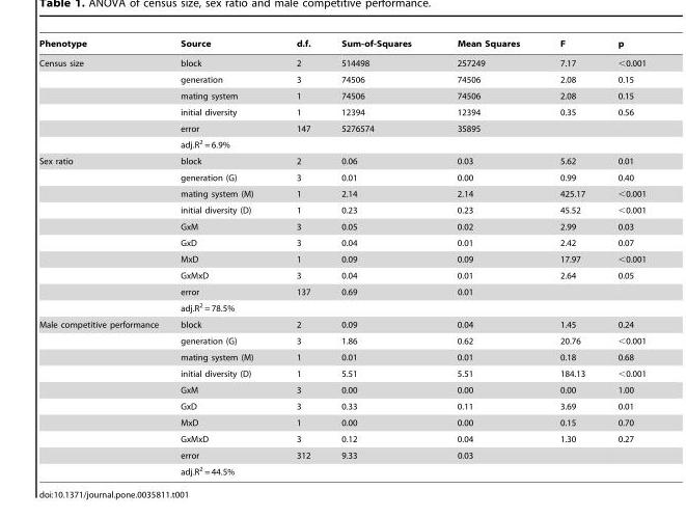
<table><thead><tr><td>Phenotype</td><td>Source</td><td>d.f.</td><td>Sum-of-Squares</td><td>Mean Squares</td><td>F</td><td>p</td></tr></thead><tbody><tr><td rowspan="6">Census size</td><td>block</td><td>2</td><td>514498</td><td>257249</td><td>7.17</td><td>&lt;0.001</td></tr><tr><td>generation</td><td>3</td><td>74506</td><td>74506</td><td>2.08</td><td>0.15</td></tr><tr><td>mating system</td><td>1</td><td>74506</td><td>74506</td><td>2.08</td><td>0.15</td></tr><tr><td>initial diversity</td><td>1</td><td>12394</td><td>12394</td><td>0.35</td><td>0.56</td></tr><tr><td>error</td><td>147</td><td>5276574</td><td>35895</td><td></td><td></td></tr><tr><td>adj.R<sup>2</sup> = 6.9%</td><td></td><td></td><td></td><td></td><td></td></tr><tr><td rowspan="10">Sex ratio</td><td>block</td><td>2</td><td>0.06</td><td>0.03</td><td>5.62</td><td>0.01</td></tr><tr><td>generation (G)</td><td>3</td><td>0.01</td><td>0.00</td><td>0.99</td><td>0.40</td></tr><tr><td>mating system (M)</td><td>1</td><td>2.14</td><td>2.14</td><td>425.17</td><td>&lt;0.001</td></tr><tr><td>initial diversity (D)</td><td>1</td><td>0.23</td><td>0.23</td><td>45.52</td><td>&lt;0.001</td></tr><tr><td>GxM</td><td>3</td><td>0.05</td><td>0.02</td><td>2.99</td><td>0.03</td></tr><tr><td>GxD</td><td>3</td><td>0.04</td><td>0.01</td><td>2.42</td><td>0.07</td></tr><tr><td>MxD</td><td>1</td><td>0.09</td><td>0.09</td><td>17.97</td><td>&lt;0.001</td></tr><tr><td>GxMxD</td><td>3</td><td>0.04</td><td>0.01</td><td>2.64</td><td>0.05</td></tr><tr><td>error</td><td>137</td><td>0.69</td><td>0.01</td><td></td><td></td></tr><tr><td>adj.R<sup>2</sup> = 78.5%</td><td></td><td></td><td></td><td></td><td></td></tr><tr><td rowspan="10">Male competitive performance</td><td>block</td><td>2</td><td>0.09</td><td>0.04</td><td>1.45</td><td>0.24</td></tr><tr><td>generation (G)</td><td>3</td><td>1.86</td><td>0.62</td><td>20.76</td><td>&lt;0.001</td></tr><tr><td>mating system (M)</td><td>1</td><td>0.01</td><td>0.01</td><td>0.18</td><td>0.68</td></tr><tr><td>initial diversity (D)</td><td>1</td><td>5.51</td><td>5.51</td><td>184.13</td><td>&lt;0.001</td></tr><tr><td>GxM</td><td>3</td><td>0.00</td><td>0.00</td><td>0.00</td><td>1.00</td></tr><tr><td>GxD</td><td>3</td><td>0.33</td><td>0.11</td><td>3.69</td><td>0.01</td></tr><tr><td>MxD</td><td>1</td><td>0.00</td><td>0.00</td><td>0.15</td><td>0.70</td></tr><tr><td>GxMxD</td><td>3</td><td>0.12</td><td>0.04</td><td>1.30</td><td>0.27</td></tr><tr><td>error</td><td>312</td><td>9.33</td><td>0.03</td><td></td><td></td></tr><tr><td>adj.R<sup>2</sup> = 44.5%</td><td></td><td></td><td></td><td></td><td></td></tr></tbody></table>